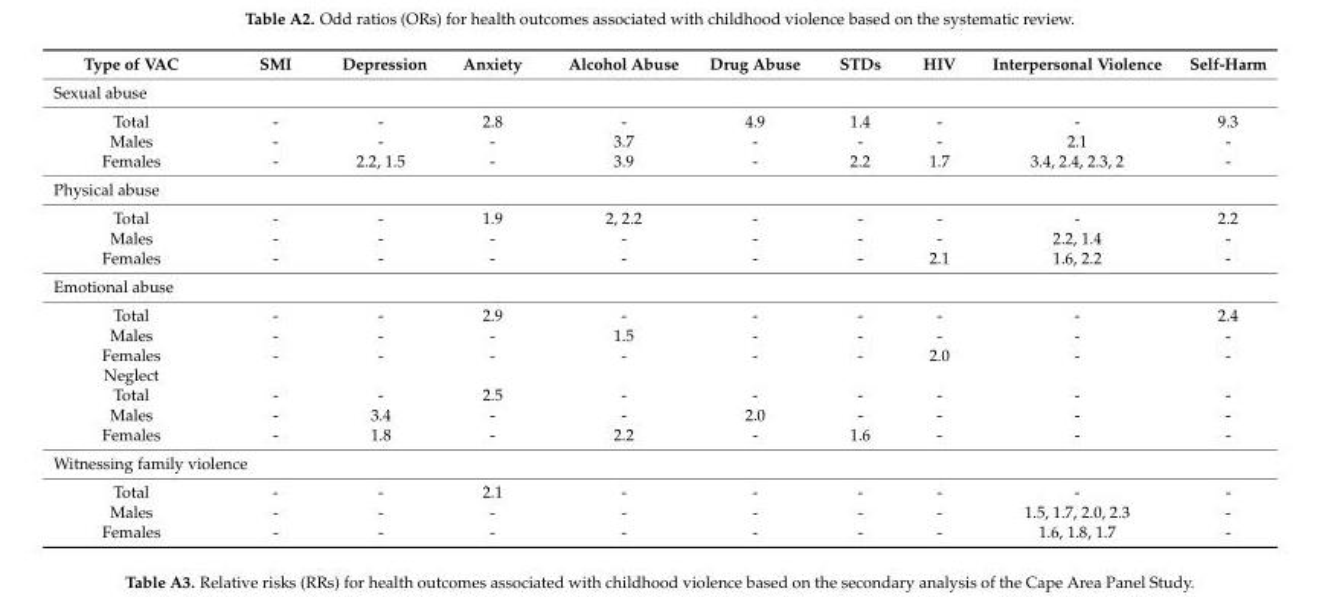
<table><thead><tr><td>Type of VAC</td><td>SMI</td><td>Depression</td><td>Anxiety</td><td>Alcohol Abuse</td><td>Drug Abuse</td><td>STDs</td><td>HIV</td><td>Interpersonal Violence</td><td>Self-Harm</td></tr></thead><tbody><tr><td colspan="10">Sexual abuse</td></tr><tr><td>Total</td><td>-</td><td>-</td><td>2.8</td><td>-</td><td>4.9</td><td>1.4</td><td>-</td><td>-</td><td>9.3</td></tr><tr><td>Males</td><td>-</td><td>-</td><td>-</td><td>3.7</td><td>-</td><td>-</td><td>-</td><td>2.1</td><td>-</td></tr><tr><td>Females</td><td>-</td><td>2.2, 1.5</td><td>-</td><td>3.9</td><td>-</td><td>2.2</td><td>1.7</td><td>3.4, 2.4, 2.3, 2</td><td>-</td></tr><tr><td colspan="10">Physical abuse</td></tr><tr><td>Total</td><td>-</td><td>-</td><td>1.9</td><td>2, 2.2</td><td>-</td><td>-</td><td>-</td><td>-</td><td>2.2</td></tr><tr><td>Males</td><td>-</td><td>-</td><td>-</td><td>-</td><td>-</td><td>-</td><td>-</td><td>2.2, 1.4</td><td>-</td></tr><tr><td>Females</td><td>-</td><td>-</td><td>-</td><td>-</td><td>-</td><td>-</td><td>2.1</td><td>1.6, 2.2</td><td>-</td></tr><tr><td colspan="10">Emotional abuse</td></tr><tr><td>Total</td><td>-</td><td>-</td><td>2.9</td><td>-</td><td>-</td><td>-</td><td>-</td><td>-</td><td>2.4</td></tr><tr><td>Males</td><td>-</td><td>-</td><td>-</td><td>1.5</td><td>-</td><td>-</td><td>-</td><td>-</td><td>-</td></tr><tr><td>Females</td><td>-</td><td>-</td><td>-</td><td>-</td><td>-</td><td>-</td><td>2.0</td><td>-</td><td>-</td></tr><tr><td colspan="10">Neglect</td></tr><tr><td>Total</td><td>-</td><td>-</td><td>2.5</td><td>-</td><td>-</td><td>-</td><td>-</td><td>-</td><td>-</td></tr><tr><td>Males</td><td>-</td><td>3.4</td><td>-</td><td>-</td><td>2.0</td><td>-</td><td>-</td><td>-</td><td>-</td></tr><tr><td>Females</td><td>-</td><td>1.8</td><td>-</td><td>2.2</td><td>-</td><td>1.6</td><td>-</td><td>-</td><td>-</td></tr><tr><td colspan="10">Witnessing family violence</td></tr><tr><td>Total</td><td>-</td><td>-</td><td>2.1</td><td>-</td><td>-</td><td>-</td><td>-</td><td>-</td><td>-</td></tr><tr><td>Males</td><td>-</td><td>-</td><td>-</td><td>-</td><td>-</td><td>-</td><td>-</td><td>1.5, 1.7, 2.0, 2.3</td><td>-</td></tr><tr><td>Females</td><td>-</td><td>-</td><td>-</td><td>-</td><td>-</td><td>-</td><td>-</td><td>1.6, 1.8, 1.7</td><td>-</td></tr></tbody></table>